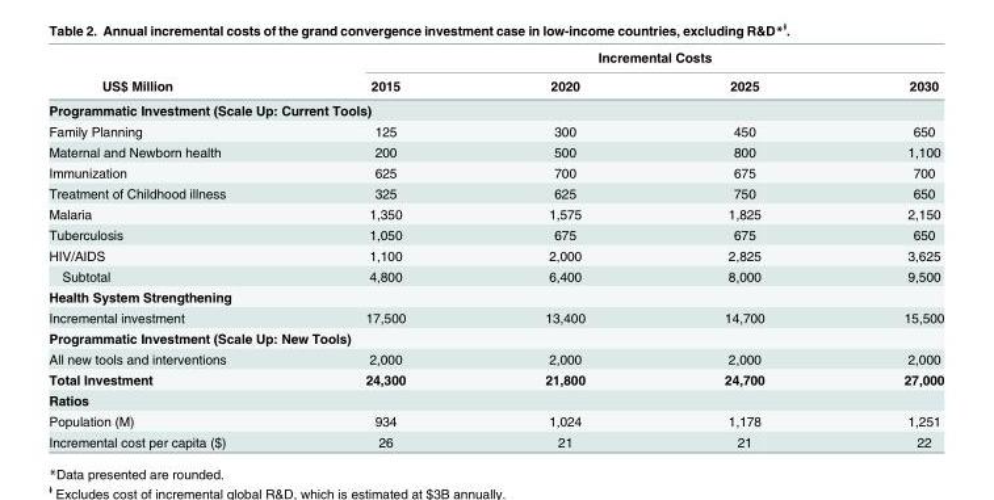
<table><thead><tr><td rowspan="2">US$ Million</td><td colspan="4">Incremental Costs</td></tr><tr><td>2015</td><td>2020</td><td>2025</td><td>2030</td></tr></thead><tbody><tr><td colspan="5">Programmatic Investment (Scale Up: Current Tools)</td></tr><tr><td>Family Planning</td><td>125</td><td>300</td><td>450</td><td>650</td></tr><tr><td>Maternal and Newborn health</td><td>200</td><td>500</td><td>800</td><td>1,100</td></tr><tr><td>Immunization</td><td>625</td><td>700</td><td>675</td><td>700</td></tr><tr><td>Treatment of Childhood illness</td><td>325</td><td>625</td><td>750</td><td>650</td></tr><tr><td>Malaria</td><td>1,350</td><td>1,575</td><td>1,825</td><td>2,150</td></tr><tr><td>Tuberculosis</td><td>1,050</td><td>675</td><td>675</td><td>650</td></tr><tr><td>HIV/AIDS</td><td>1,100</td><td>2,000</td><td>2,825</td><td>3,625</td></tr><tr><td>Subtotal</td><td>4,800</td><td>6,400</td><td>8,000</td><td>9,500</td></tr><tr><td colspan="5">Health System Strengthening</td></tr><tr><td>Incremental investment</td><td>17,500</td><td>13,400</td><td>14,700</td><td>15,500</td></tr><tr><td colspan="5">Programmatic Investment (Scale Up: New Tools)</td></tr><tr><td>All new tools and interventions</td><td>2,000</td><td>2,000</td><td>2,000</td><td>2,000</td></tr><tr><td>Total Investment</td><td>24,300</td><td>21,800</td><td>24,700</td><td>27,000</td></tr><tr><td colspan="5">Ratios</td></tr><tr><td>Population (M)</td><td>934</td><td>1,024</td><td>1,178</td><td>1,251</td></tr><tr><td>Incremental cost per capita ($)</td><td>26</td><td>21</td><td>21</td><td>22</td></tr></tbody></table>